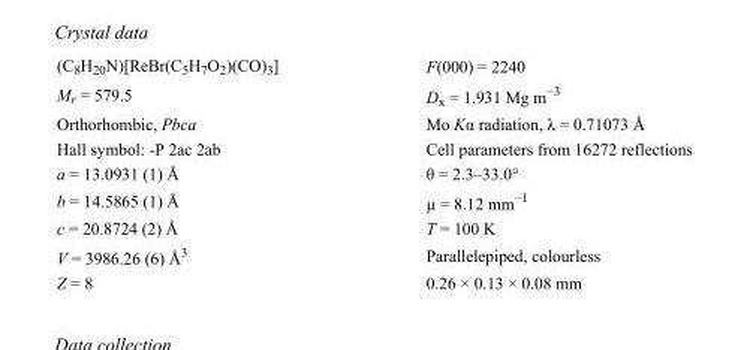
<table><tbody><tr><td>(C<sub>8</sub>H<sub>20</sub>N)[ReBr(C<sub>5</sub>H<sub>7</sub>O<sub>2</sub>)(CO)<sub>3</sub>]</td><td>F(000) = 2240</td></tr><tr><td>M<sub>r</sub> = 579.5</td><td>D<sub>x</sub> = 1.931 Mg m<sup>−3</sup></td></tr><tr><td>Orthorhombic, Pbca</td><td>Mo Kα radiation, λ = 0.71073 Å</td></tr><tr><td>Hall symbol: -P 2ac 2ab</td><td>Cell parameters from 16272 reflections</td></tr><tr><td>a = 13.0931 (1) Å</td><td>θ = 2.3–33.0°</td></tr><tr><td>b = 14.5865 (1) Å</td><td>µ = 8.12 mm<sup>−1</sup></td></tr><tr><td>c = 20.8724 (2) Å</td><td>T = 100 K</td></tr><tr><td>V = 3986.26 (6) Å<sup>3</sup></td><td>Parallelepiped, colourless</td></tr><tr><td>Z = 8</td><td>0.26 × 0.13 × 0.08 mm</td></tr></tbody></table>